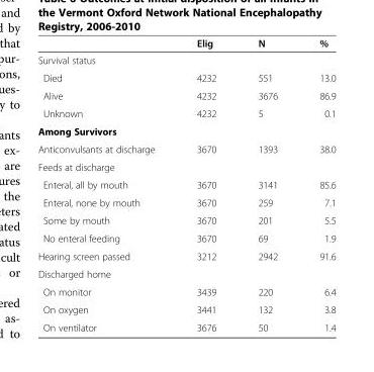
<table><thead><tr><td></td><td>Elig</td><td>N</td><td>%</td></tr></thead><tbody><tr><td colspan="4">Survival status</td></tr><tr><td>Died</td><td>4232</td><td>551</td><td>13.0</td></tr><tr><td>Alive</td><td>4232</td><td>3676</td><td>86.9</td></tr><tr><td>Unknown</td><td>4232</td><td>5</td><td>0.1</td></tr><tr><td colspan="4">Among Survivors</td></tr><tr><td>Anticonvulsants at discharge</td><td>3670</td><td>1393</td><td>38.0</td></tr><tr><td colspan="4">Feeds at discharge</td></tr><tr><td>Enteral, all by mouth</td><td>3670</td><td>3141</td><td>85.6</td></tr><tr><td>Enteral, none by mouth</td><td>3670</td><td>259</td><td>7.1</td></tr><tr><td>Some by mouth</td><td>3670</td><td>201</td><td>5.5</td></tr><tr><td>No enteral feeding</td><td>3670</td><td>69</td><td>1.9</td></tr><tr><td>Hearing screen passed</td><td>3212</td><td>2942</td><td>91.6</td></tr><tr><td colspan="4">Discharged home</td></tr><tr><td>On monitor</td><td>3439</td><td>220</td><td>6.4</td></tr><tr><td>On oxygen</td><td>3441</td><td>132</td><td>3.8</td></tr><tr><td>On ventilator</td><td>3676</td><td>50</td><td>1.4</td></tr></tbody></table>